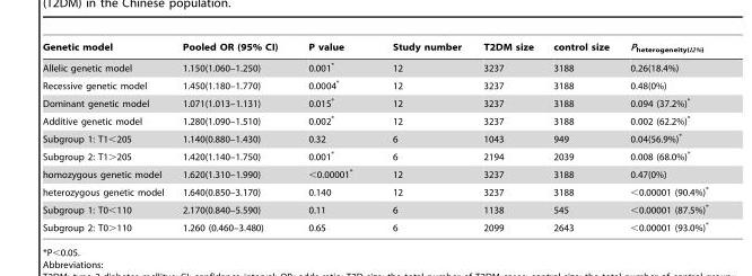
<table><thead><tr><td>Genetic model</td><td>Pooled OR (95% CI)</td><td>P value</td><td>Study number</td><td>T2DM size</td><td>control size</td><td>P<sub>heterogeneity(I2%)</sub></td></tr></thead><tbody><tr><td>Allelic genetic model</td><td>1.150(1.060–1.250)</td><td>0.001*</td><td>12</td><td>3237</td><td>3188</td><td>0.26(18.4%)</td></tr><tr><td>Recessive genetic model</td><td>1.450(1.180–1.770)</td><td>0.0004*</td><td>12</td><td>3237</td><td>3188</td><td>0.48(0%)</td></tr><tr><td>Dominant genetic model</td><td>1.071(1.013–1.131)</td><td>0.015*</td><td>12</td><td>3237</td><td>3188</td><td>0.094 (37.2%)*</td></tr><tr><td>Additive genetic model</td><td>1.280(1.090–1.510)</td><td>0.002*</td><td>12</td><td>3237</td><td>3188</td><td>0.002 (62.2%)*</td></tr><tr><td>Subgroup 1: T1&lt;205</td><td>1.140(0.880–1.430)</td><td>0.32</td><td>6</td><td>1043</td><td>949</td><td>0.04(56.9%)*</td></tr><tr><td>Subgroup 2: T1&gt;205</td><td>1.420(1.140–1.750)</td><td>0.001*</td><td>6</td><td>2194</td><td>2039</td><td>0.008 (68.0%)*</td></tr><tr><td>homozygous genetic model</td><td>1.620(1.310–1.990)</td><td>&lt;0.00001*</td><td>12</td><td>3237</td><td>3188</td><td>0.47(0%)</td></tr><tr><td>heterozygous genetic model</td><td>1.640(0.850–3.170)</td><td>0.140</td><td>12</td><td>3237</td><td>3188</td><td>&lt;0.00001 (90.4%)*</td></tr><tr><td>Subgroup 1: T0&lt;110</td><td>2.170(0.840–5.590)</td><td>0.11</td><td>6</td><td>1138</td><td>545</td><td>&lt;0.00001 (87.5%)*</td></tr><tr><td>Subgroup 2: T0&gt;110</td><td>1.260 (0.460–3.480)</td><td>0.65</td><td>6</td><td>2099</td><td>2643</td><td>&lt;0.00001 (93.0%)*</td></tr></tbody></table>